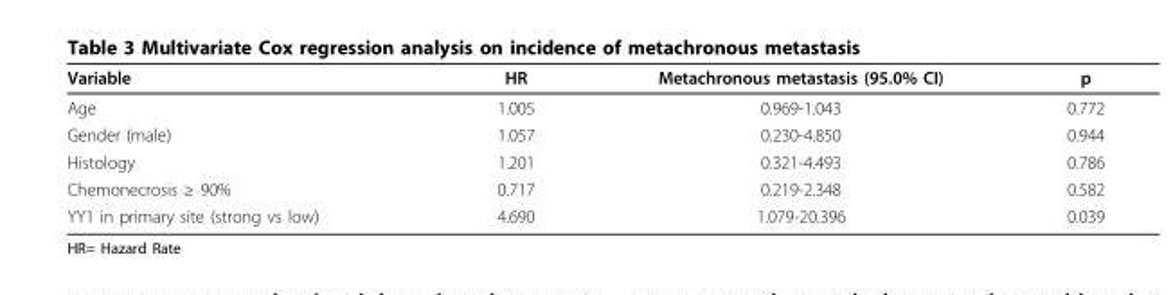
<table><thead><tr><td>Variable</td><td>HR</td><td>Metachronous metastasis (95.0% CI)</td><td>p</td></tr></thead><tbody><tr><td>Age</td><td>1.005</td><td>0.969-1.043</td><td>0.772</td></tr><tr><td>Gender (male)</td><td>1.057</td><td>0.230-4.850</td><td>0.944</td></tr><tr><td>Histology</td><td>1.201</td><td>0.321-4.493</td><td>0.786</td></tr><tr><td>Chemonecrosis ≥ 90%</td><td>0.717</td><td>0.219-2.348</td><td>0.582</td></tr><tr><td>YY1 in primary site (strong vs low)</td><td>4.690</td><td>1.079-20.396</td><td>0.039</td></tr></tbody></table>